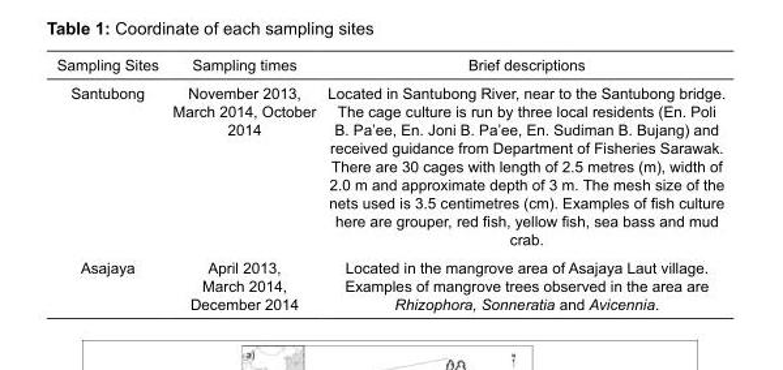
<table><thead><tr><td>Sampling Sites</td><td>Sampling times</td><td>Brief descriptions</td></tr></thead><tbody><tr><td>Santubong</td><td>November 2013, March 2014, October 2014</td><td>Located in Santubong River, near to the Santubong bridge. The cage culture is run by three local residents (En. Poli B. Pa’ee, En. Joni B. Pa’ee, En. Sudiman B. Bujang) and received guidance from Department of Fisheries Sarawak. There are 30 cages with length of 2.5 metres (m), width of 2.0 m and approximate depth of 3 m. The mesh size of the nets used is 3.5 centimetres (cm). Examples of fish culture here are grouper, red fish, yellow fish, sea bass and mud crab.</td></tr><tr><td>Asajaya</td><td>April 2013, March 2014, December 2014</td><td>Located in the mangrove area of Asajaya Laut village. Examples of mangrove trees observed in the area are Rhizophora, Sonneratia and Avicennia.</td></tr></tbody></table>